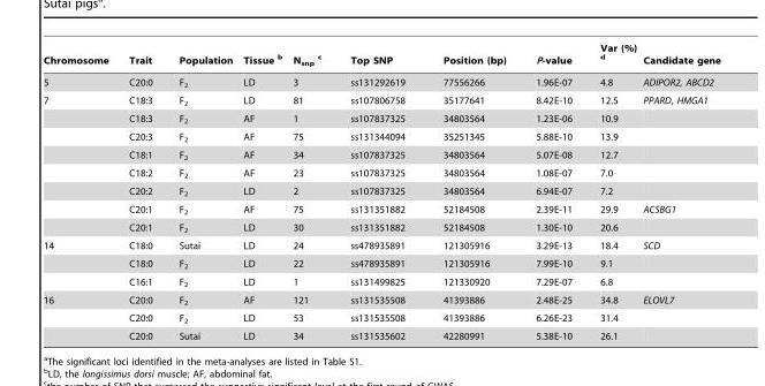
<table><thead><tr><td>Chromosome</td><td>Trait</td><td>Population</td><td>Tissue b</td><td>N<sub>snp</sub> c</td><td>Top SNP</td><td>Position (bp)</td><td>P-value</td><td>Var (%) d</td><td>Candidate gene</td></tr></thead><tbody><tr><td>5</td><td>C20:0</td><td>F<sub>2</sub></td><td>LD</td><td>3</td><td>ss131292619</td><td>77556266</td><td>1.96E-07</td><td>4.8</td><td>ADIPOR2, ABCD2</td></tr><tr><td rowspan="8">7</td><td>C18:3</td><td>F<sub>2</sub></td><td>LD</td><td>81</td><td>ss107806758</td><td>35177641</td><td>8.42E-10</td><td>12.5</td><td>PPARD, HMGA1</td></tr><tr><td>C18:3</td><td>F<sub>2</sub></td><td>AF</td><td>1</td><td>ss107837325</td><td>34803564</td><td>1.23E-06</td><td>10.9</td><td></td></tr><tr><td>C20:3</td><td>F<sub>2</sub></td><td>AF</td><td>75</td><td>ss131344094</td><td>35251345</td><td>5.88E-10</td><td>13.9</td><td></td></tr><tr><td>C18:1</td><td>F<sub>2</sub></td><td>AF</td><td>34</td><td>ss107837325</td><td>34803564</td><td>5.07E-08</td><td>12.7</td><td></td></tr><tr><td>C18:2</td><td>F<sub>2</sub></td><td>AF</td><td>23</td><td>ss107837325</td><td>34803564</td><td>1.08E-07</td><td>7.0</td><td></td></tr><tr><td>C20:2</td><td>F<sub>2</sub></td><td>LD</td><td>2</td><td>ss107837325</td><td>34803564</td><td>6.94E-07</td><td>7.2</td><td></td></tr><tr><td>C20:1</td><td>F<sub>2</sub></td><td>AF</td><td>75</td><td>ss131351882</td><td>52184508</td><td>2.39E-11</td><td>29.9</td><td>ACSBG1</td></tr><tr><td>C20:1</td><td>F<sub>2</sub></td><td>LD</td><td>30</td><td>ss131351882</td><td>52184508</td><td>1.30E-10</td><td>20.6</td><td></td></tr><tr><td rowspan="3">14</td><td>C18:0</td><td>Sutai</td><td>LD</td><td>24</td><td>ss478935891</td><td>121305916</td><td>3.29E-13</td><td>18.4</td><td>SCD</td></tr><tr><td>C18:0</td><td>F<sub>2</sub></td><td>LD</td><td>22</td><td>ss478935891</td><td>121305916</td><td>7.99E-10</td><td>9.1</td><td></td></tr><tr><td>C16:1</td><td>F<sub>2</sub></td><td>LD</td><td>1</td><td>ss131499825</td><td>121330920</td><td>7.29E-07</td><td>6.8</td><td></td></tr><tr><td rowspan="3">16</td><td>C20:0</td><td>F<sub>2</sub></td><td>AF</td><td>121</td><td>ss131535508</td><td>41393886</td><td>2.48E-25</td><td>34.8</td><td>ELOVL7</td></tr><tr><td>C20:0</td><td>F<sub>2</sub></td><td>LD</td><td>53</td><td>ss131535508</td><td>41393886</td><td>6.26E-23</td><td>31.4</td><td></td></tr><tr><td>C20:0</td><td>Sutai</td><td>LD</td><td>34</td><td>ss131535602</td><td>42280991</td><td>5.38E-10</td><td>26.1</td><td></td></tr></tbody></table>